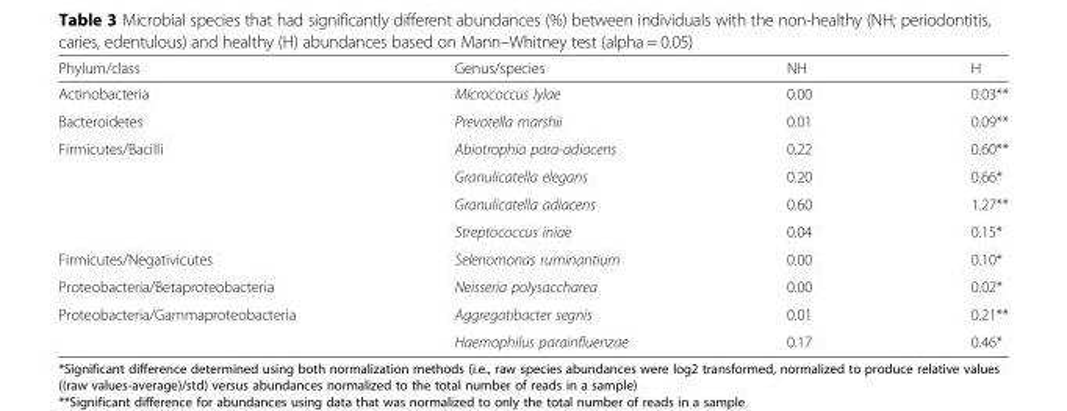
<table><thead><tr><td>Phylum/class</td><td>Genus/species</td><td>NH</td><td>H</td></tr></thead><tbody><tr><td>Actinobacteria</td><td>Micrococcus lylae</td><td>0.00</td><td>0.03**</td></tr><tr><td>Bacteroidetes</td><td>Prevotella marshii</td><td>0.01</td><td>0.09**</td></tr><tr><td rowspan="4">Firmicutes/Bacilli</td><td>Abiotrophia para-adiacens</td><td>0.22</td><td>0.60**</td></tr><tr><td>Granulicatella elegans</td><td>0.20</td><td>0.66*</td></tr><tr><td>Granulicatella adiacens</td><td>0.60</td><td>1.27**</td></tr><tr><td>Streptococcus iniae</td><td>0.04</td><td>0.15*</td></tr><tr><td>Firmicutes/Negativicutes</td><td>Selenomonas ruminantium</td><td>0.00</td><td>0.10*</td></tr><tr><td>Proteobacteria/Betaproteobacteria</td><td>Neisseria polysaccharea</td><td>0.00</td><td>0.02*</td></tr><tr><td rowspan="2">Proteobacteria/Gammaproteobacteria</td><td>Aggregatibacter segnis</td><td>0.01</td><td>0.21**</td></tr><tr><td>Haemophilus parainfluenzae</td><td>0.17</td><td>0.46*</td></tr></tbody></table>